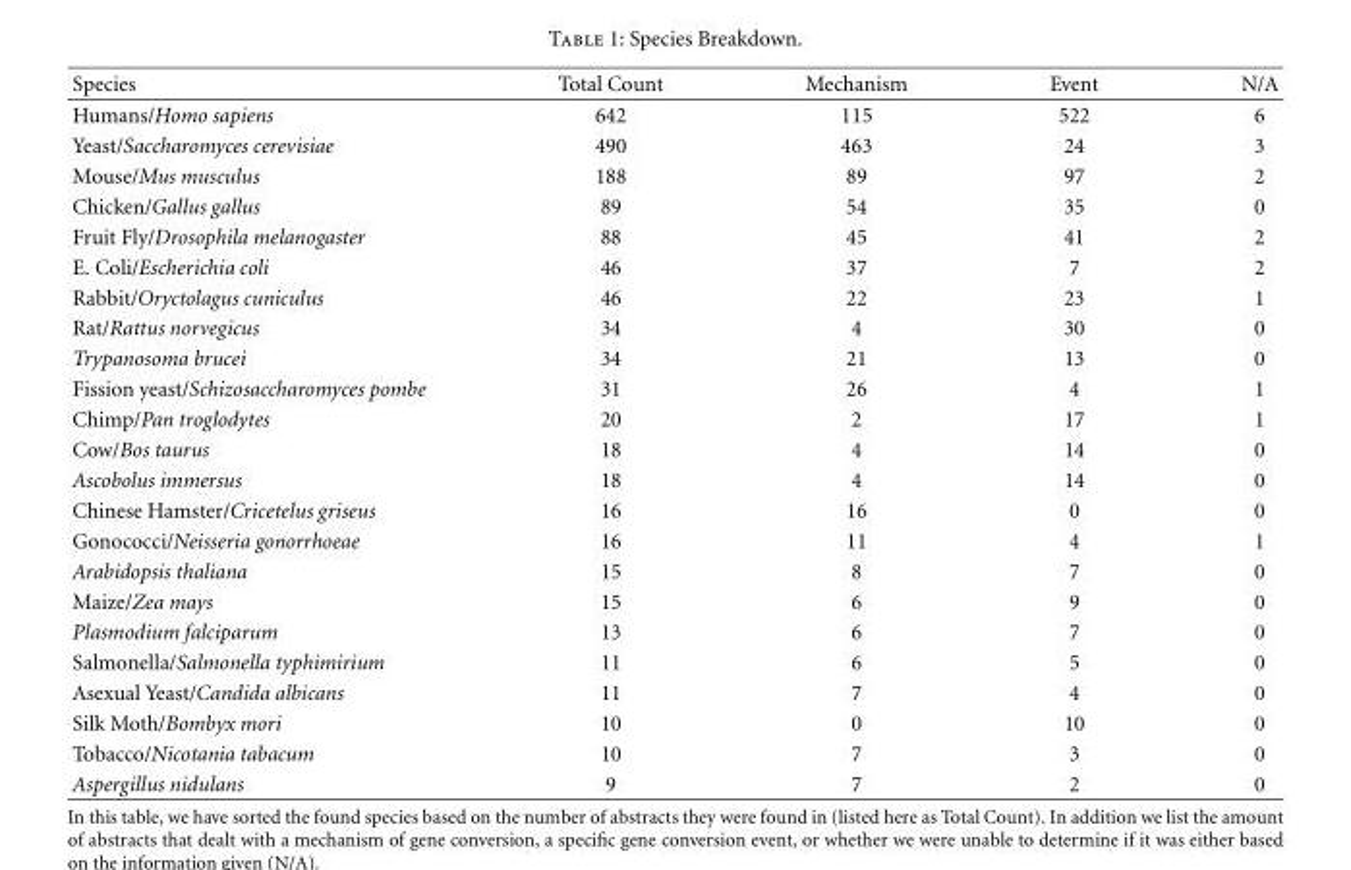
<table><thead><tr><td>Species</td><td>Total Count</td><td>Mechanism</td><td>Event</td><td>N/A</td></tr></thead><tbody><tr><td>Humans/Homo sapiens</td><td>642</td><td>115</td><td>522</td><td>6</td></tr><tr><td>Yeast/Saccharomyces cerevisiae</td><td>490</td><td>463</td><td>24</td><td>3</td></tr><tr><td>Mouse/Mus musculus</td><td>188</td><td>89</td><td>97</td><td>2</td></tr><tr><td>Chicken/Gallus gallus</td><td>89</td><td>54</td><td>35</td><td>0</td></tr><tr><td>Fruit Fly/Drosophila melanogaster</td><td>88</td><td>45</td><td>41</td><td>2</td></tr><tr><td>E. Coli/Escherichia coli</td><td>46</td><td>37</td><td>7</td><td>2</td></tr><tr><td>Rabbit/Oryctolagus cuniculus</td><td>46</td><td>22</td><td>23</td><td>1</td></tr><tr><td>Rat/Rattus norvegicus</td><td>34</td><td>4</td><td>30</td><td>0</td></tr><tr><td>Trypanosoma brucei</td><td>34</td><td>21</td><td>13</td><td>0</td></tr><tr><td>Fission yeast/Schizosaccharomyces pombe</td><td>31</td><td>26</td><td>4</td><td>1</td></tr><tr><td>Chimp/Pan troglodytes</td><td>20</td><td>2</td><td>17</td><td>1</td></tr><tr><td>Cow/Bos taurus</td><td>18</td><td>4</td><td>14</td><td>0</td></tr><tr><td>Ascobolus immersus</td><td>18</td><td>4</td><td>14</td><td>0</td></tr><tr><td>Chinese Hamster/Cricetelus griseus</td><td>16</td><td>16</td><td>0</td><td>0</td></tr><tr><td>Gonococci/Neisseria gonorrhoeae</td><td>16</td><td>11</td><td>4</td><td>1</td></tr><tr><td>Arabidopsis thaliana</td><td>15</td><td>8</td><td>7</td><td>0</td></tr><tr><td>Maize/Zea mays</td><td>15</td><td>6</td><td>9</td><td>0</td></tr><tr><td>Plasmodium falciparum</td><td>13</td><td>6</td><td>7</td><td>0</td></tr><tr><td>Salmonella/Salmonella typhimirium</td><td>11</td><td>6</td><td>5</td><td>0</td></tr><tr><td>Asexual Yeast/Candida albicans</td><td>11</td><td>7</td><td>4</td><td>0</td></tr><tr><td>Silk Moth/Bombyx mori</td><td>10</td><td>0</td><td>10</td><td>0</td></tr><tr><td>Tobacco/Nicotania tabacum</td><td>10</td><td>7</td><td>3</td><td>0</td></tr><tr><td>Aspergillus nidulans</td><td>9</td><td>7</td><td>2</td><td>0</td></tr></tbody></table>